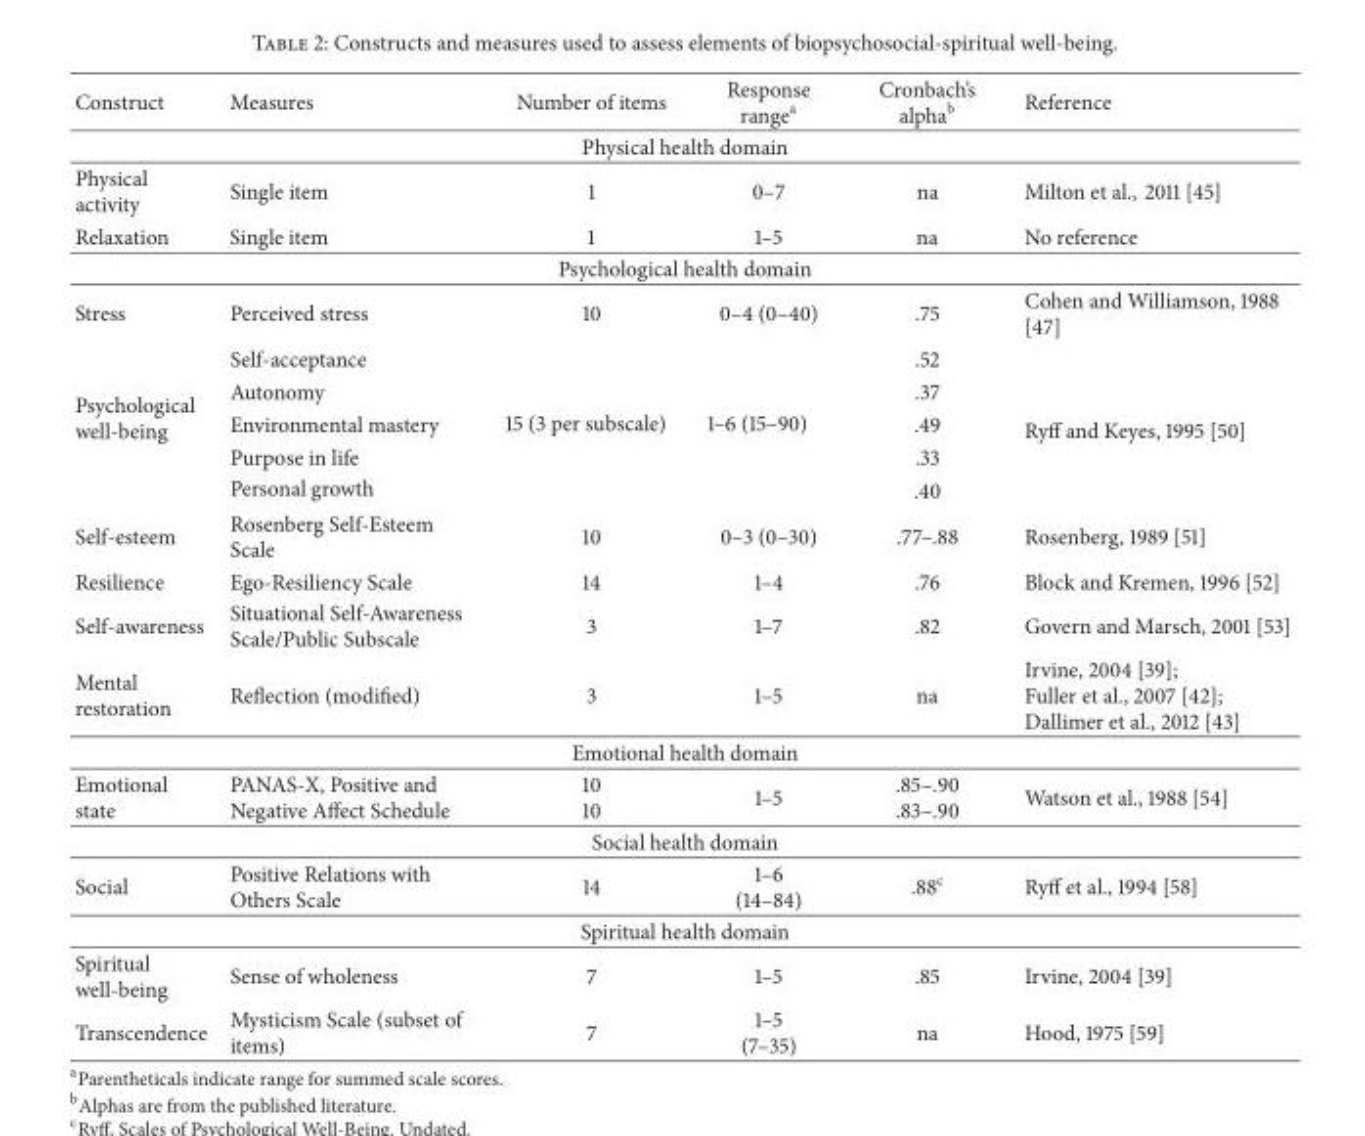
<table><thead><tr><td>Construct</td><td>Measures</td><td>Number of items</td><td>Response range<sup>a</sup></td><td>Cronbach’s alpha<sup>b</sup></td><td>Reference</td></tr></thead><tbody><tr><td colspan="6">Physical health domain</td></tr><tr><td>Physical activity</td><td>Single item</td><td>1</td><td>0–7</td><td>na</td><td>Milton et al., 2011 [45]</td></tr><tr><td>Relaxation</td><td>Single item</td><td>1</td><td>1–5</td><td>na</td><td>No reference</td></tr><tr><td colspan="6">Psychological health domain</td></tr><tr><td>Stress</td><td>Perceived stress</td><td>10</td><td>0–4 (0–40)</td><td>.75</td><td>Cohen and Williamson, 1988 [47]</td></tr><tr><td rowspan="5">Psychological well-being</td><td>Self-acceptance</td><td rowspan="5">15 (3 per subscale)</td><td rowspan="5">1–6 (15–90)</td><td>.52</td><td rowspan="5">Ryff and Keyes, 1995 [50]</td></tr><tr><td>Autonomy</td><td>.37</td></tr><tr><td>Environmental mastery</td><td>.49</td></tr><tr><td>Purpose in life</td><td>.33</td></tr><tr><td>Personal growth</td><td>.40</td></tr><tr><td>Self-esteem</td><td>Rosenberg Self-Esteem Scale</td><td>10</td><td>0–3 (0–30)</td><td>.77–.88</td><td>Rosenberg, 1989 [51]</td></tr><tr><td>Resilience</td><td>Ego-Resiliency Scale</td><td>14</td><td>1–4</td><td>.76</td><td>Block and Kremen, 1996 [52]</td></tr><tr><td>Self-awareness</td><td>Situational Self-Awareness Scale/Public Subscale</td><td>3</td><td>1–7</td><td>.82</td><td>Govern and Marsch, 2001 [53]</td></tr><tr><td>Mental restoration</td><td>Reflection (modified)</td><td>3</td><td>1–5</td><td>na</td><td>Irvine, 2004 [39]; Fuller et al., 2007 [42]; Dallimer et al., 2012 [43]</td></tr><tr><td colspan="6">Emotional health domain</td></tr><tr><td>Emotional state</td><td>PANAS-X, Positive and Negative Affect Schedule</td><td>10 10</td><td>1–5</td><td>.85–.90 .83–.90</td><td>Watson et al., 1988 [54]</td></tr><tr><td colspan="6">Social health domain</td></tr><tr><td>Social</td><td>Positive Relations with Others Scale</td><td>14</td><td>1–6 (14–84)</td><td>.88<sup>c</sup></td><td>Ryff et al., 1994 [58]</td></tr><tr><td colspan="6">Spiritual health domain</td></tr><tr><td>Spiritual well-being</td><td>Sense of wholeness</td><td>7</td><td>1–5</td><td>.85</td><td>Irvine, 2004 [39]</td></tr><tr><td>Transcendence</td><td>Mysticism Scale (subset of items)</td><td>7</td><td>1–5 (7–35)</td><td>na</td><td>Hood, 1975 [59]</td></tr></tbody></table>